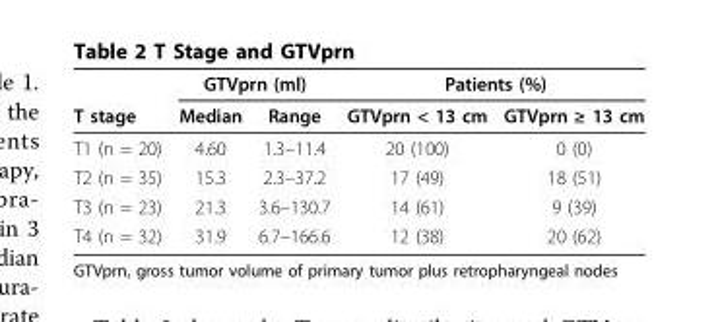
<table><thead><tr><td rowspan="2">T stage</td><td colspan="2">GTVprn (ml)</td><td colspan="2">Patients (%)</td></tr><tr><td>Median</td><td>Range</td><td>GTVprn &lt; 13 cm</td><td>GTVprn ≥ 13 cm</td></tr></thead><tbody><tr><td>T1 (n = 20)</td><td>4.60</td><td>1.3–11.4</td><td>20 (100)</td><td>0 (0)</td></tr><tr><td>T2 (n = 35)</td><td>15.3</td><td>2.3–37.2</td><td>17 (49)</td><td>18 (51)</td></tr><tr><td>T3 (n = 23)</td><td>21.3</td><td>3.6–130.7</td><td>14 (61)</td><td>9 (39)</td></tr><tr><td>T4 (n = 32)</td><td>31.9</td><td>6.7–166.6</td><td>12 (38)</td><td>20 (62)</td></tr></tbody></table>